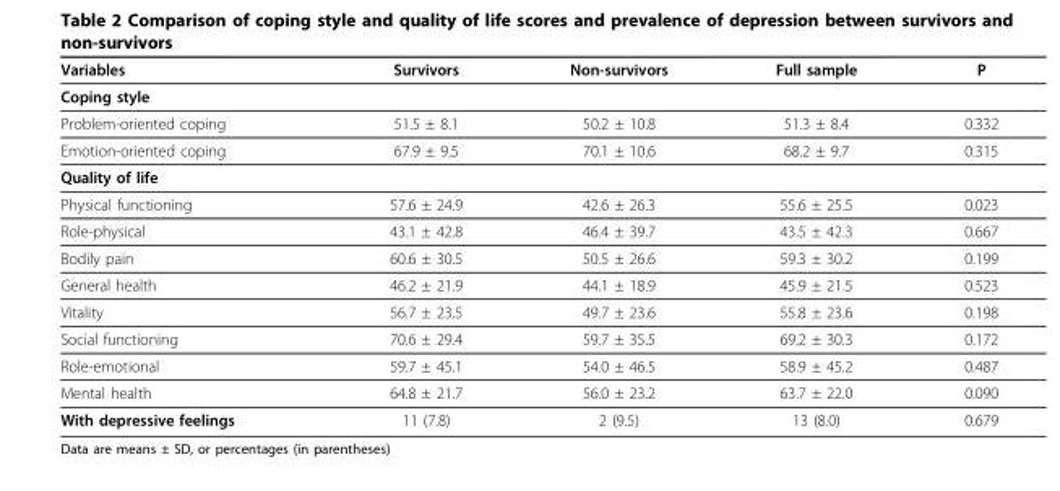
<table><thead><tr><td>Variables</td><td>Survivors</td><td>Non-survivors</td><td>Full sample</td><td>P</td></tr></thead><tbody><tr><td colspan="5">Coping style</td></tr><tr><td>Problem-oriented coping</td><td>51.5 ± 8.1</td><td>50.2 ± 10.8</td><td>51.3 ± 8.4</td><td>0.332</td></tr><tr><td>Emotion-oriented coping</td><td>67.9 ± 9.5</td><td>70.1 ± 10.6</td><td>68.2 ± 9.7</td><td>0.315</td></tr><tr><td colspan="5">Quality of life</td></tr><tr><td>Physical functioning</td><td>57.6 ± 24.9</td><td>42.6 ± 26.3</td><td>55.6 ± 25.5</td><td>0.023</td></tr><tr><td>Role-physical</td><td>43.1 ± 42.8</td><td>46.4 ± 39.7</td><td>43.5 ± 42.3</td><td>0.667</td></tr><tr><td>Bodily pain</td><td>60.6 ± 30.5</td><td>50.5 ± 26.6</td><td>59.3 ± 30.2</td><td>0.199</td></tr><tr><td>General health</td><td>46.2 ± 21.9</td><td>44.1 ± 18.9</td><td>45.9 ± 21.5</td><td>0.523</td></tr><tr><td>Vitality</td><td>56.7 ± 23.5</td><td>49.7 ± 23.6</td><td>55.8 ± 23.6</td><td>0.198</td></tr><tr><td>Social functioning</td><td>70.6 ± 29.4</td><td>59.7 ± 35.5</td><td>69.2 ± 30.3</td><td>0.172</td></tr><tr><td>Role-emotional</td><td>59.7 ± 45.1</td><td>54.0 ± 46.5</td><td>58.9 ± 45.2</td><td>0.487</td></tr><tr><td>Mental health</td><td>64.8 ± 21.7</td><td>56.0 ± 23.2</td><td>63.7 ± 22.0</td><td>0.090</td></tr><tr><td>With depressive feelings</td><td>11 (7.8)</td><td>2 (9.5)</td><td>13 (8.0)</td><td>0.679</td></tr></tbody></table>